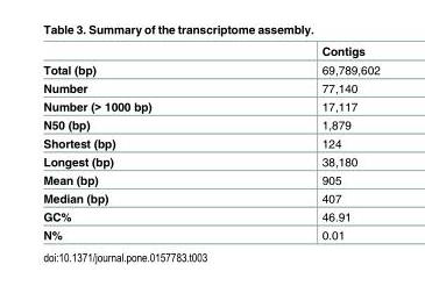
<table><thead><tr><td></td><td>Contigs</td></tr></thead><tbody><tr><td>Total (bp)</td><td>69,789,602</td></tr><tr><td>Number</td><td>77,140</td></tr><tr><td>Number (&gt; 1000 bp)</td><td>17,117</td></tr><tr><td>N50 (bp)</td><td>1,879</td></tr><tr><td>Shortest (bp)</td><td>124</td></tr><tr><td>Longest (bp)</td><td>38,180</td></tr><tr><td>Mean (bp)</td><td>905</td></tr><tr><td>Median (bp)</td><td>407</td></tr><tr><td>GC%</td><td>46.91</td></tr><tr><td>N%</td><td>0.01</td></tr></tbody></table>